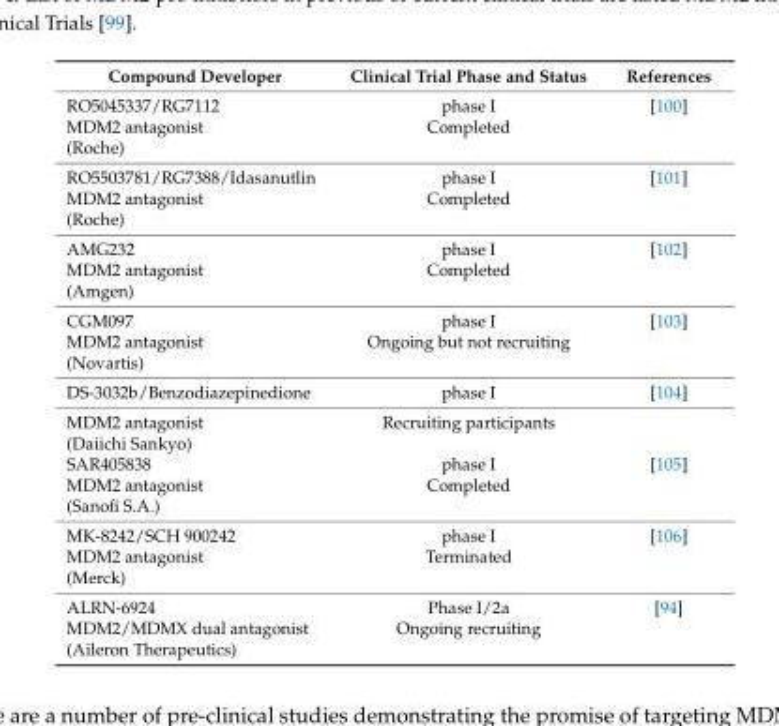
<table><thead><tr><td>Compound Developer</td><td>Clinical Trial Phase and Status</td><td>References</td></tr></thead><tbody><tr><td>RO5045337/RG7112</td><td>phase I</td><td>[100]</td></tr><tr><td>MDM2 antagonist</td><td>Completed</td><td></td></tr><tr><td colspan="3">(Roche)</td></tr><tr><td>RO5503781/RG7388/Idasanutlin</td><td>phase I</td><td>[101]</td></tr><tr><td>MDM2 antagonist</td><td>Completed</td><td></td></tr><tr><td colspan="3">(Roche)</td></tr><tr><td>AMG232</td><td>phase I</td><td>[102]</td></tr><tr><td>MDM2 antagonist</td><td>Completed</td><td></td></tr><tr><td colspan="3">(Amgen)</td></tr><tr><td>CGM097</td><td>phase I</td><td>[103]</td></tr><tr><td>MDM2 antagonist</td><td>Ongoing but not recruiting</td><td></td></tr><tr><td colspan="3">(Novartis)</td></tr><tr><td>DS-3032b/Benzodiazepinedione</td><td>phase I</td><td>[104]</td></tr><tr><td>MDM2 antagonist</td><td>Recruiting participants</td><td></td></tr><tr><td colspan="3">(Daiichi Sankyo)</td></tr><tr><td>SAR405838</td><td>phase I</td><td>[105]</td></tr><tr><td>MDM2 antagonist</td><td>Completed</td><td></td></tr><tr><td colspan="3">(Sanofi S.A.)</td></tr><tr><td>MK-8242/SCH 900242</td><td>phase I</td><td>[106]</td></tr><tr><td>MDM2 antagonist</td><td>Terminated</td><td></td></tr><tr><td colspan="3">(Merck)</td></tr><tr><td>ALRN-6924</td><td>Phase I/2a</td><td>[94]</td></tr><tr><td>MDM2/MDMX dual antagonist</td><td>Ongoing recruiting</td><td></td></tr><tr><td>(Aileron Therapeutics)</td><td></td><td></td></tr></tbody></table>